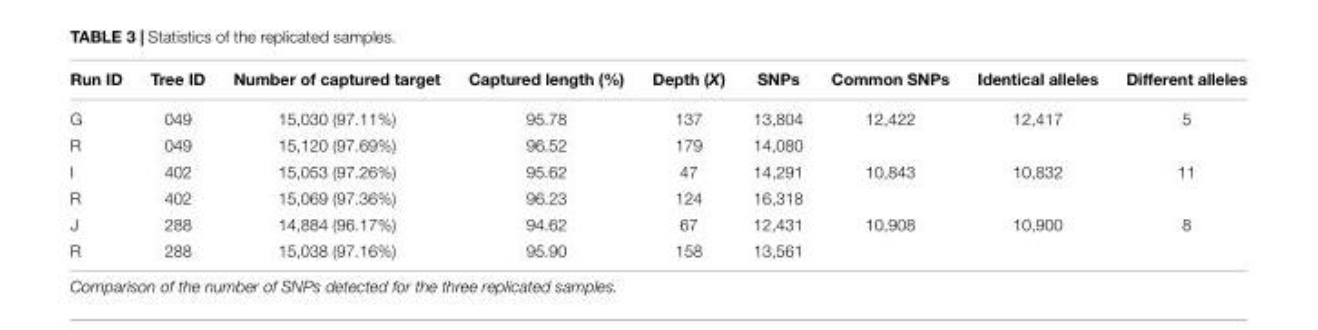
<table><thead><tr><td>Run ID</td><td>Tree ID</td><td>Number of captured target</td><td>Captured length (%)</td><td>Depth (X)</td><td>SNPs</td><td>Common SNPs</td><td>Identical alleles</td><td>Different alleles</td></tr></thead><tbody><tr><td>G</td><td>049</td><td>15,030 (97.11%)</td><td>95.78</td><td>137</td><td>13,804</td><td>12,422</td><td>12,417</td><td>5</td></tr><tr><td>R</td><td>049</td><td>15,120 (97.69%)</td><td>96.52</td><td>179</td><td>14,080</td><td></td><td></td><td></td></tr><tr><td>I</td><td>402</td><td>15,053 (97.26%)</td><td>95.62</td><td>47</td><td>14,291</td><td>10,843</td><td>10,832</td><td>11</td></tr><tr><td>R</td><td>402</td><td>15,069 (97.36%)</td><td>96.23</td><td>124</td><td>16,318</td><td></td><td></td><td></td></tr><tr><td>J</td><td>288</td><td>14,884 (96.17%)</td><td>94.62</td><td>67</td><td>12,431</td><td>10,908</td><td>10,900</td><td>8</td></tr><tr><td>R</td><td>288</td><td>15,038 (97.16%)</td><td>95.90</td><td>158</td><td>13,561</td><td></td><td></td><td></td></tr></tbody></table>